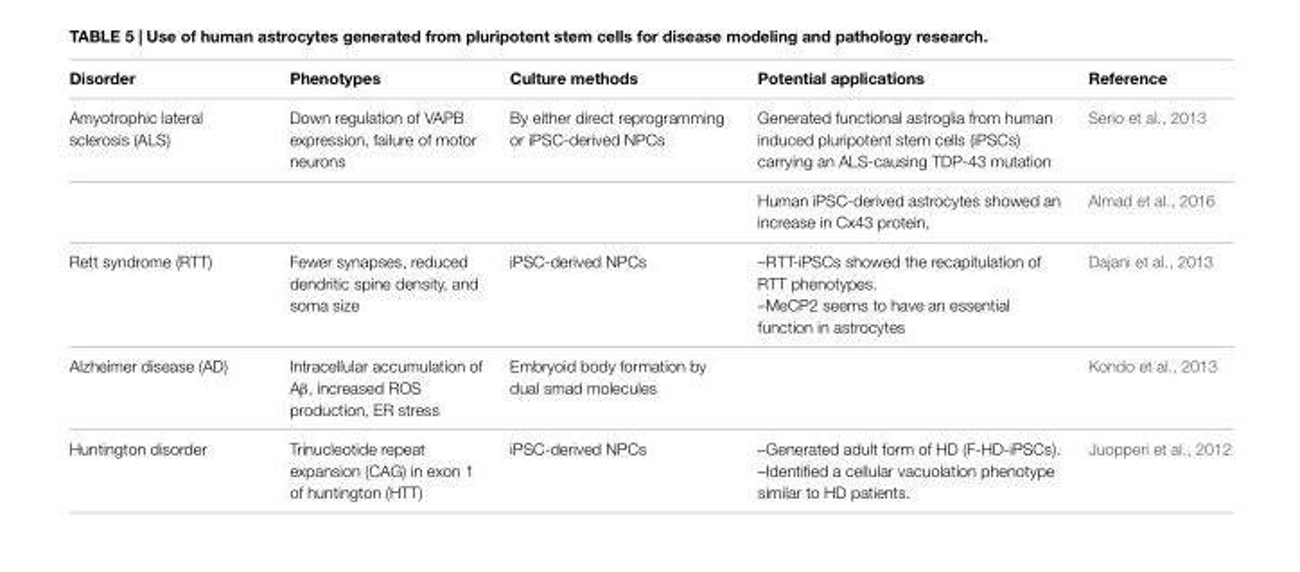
<table><thead><tr><td>Disorder</td><td>Phenotypes</td><td>Culture methods</td><td>Potential applications</td><td>Reference</td></tr></thead><tbody><tr><td rowspan="2">Amyotrophic lateral sclerosis (ALS)</td><td>Down regulation of VAPB expression, failure of motor neurons</td><td>By either direct reprogramming or iPSC-derived NPCs</td><td>Generated functional astroglia from human induced pluripotent stem cells (iPSCs) carrying an ALS-causing TDP-43 mutation</td><td>Serio et al., 2013</td></tr><tr><td></td><td></td><td>Human iPSC-derived astrocytes showed an increase in Cx43 protein,</td><td>Almad et al., 2016</td></tr><tr><td>Rett syndrome (RTT)</td><td>Fewer synapses, reduced dendritic spine density, and soma size</td><td>iPSC-derived NPCs</td><td>–RTT-iPSCs showed the recapitulation of RTT phenotypes. –MeCP2 seems to have an essential function in astrocytes</td><td>Dajani et al., 2013</td></tr><tr><td>Alzheimer disease (AD)</td><td>Intracellular accumulation of Aβ, increased ROS production, ER stress</td><td>Embryoid body formation by dual smad molecules</td><td></td><td>Kondo et al., 2013</td></tr><tr><td>Huntington disorder</td><td>Trinucleotide repeat expansion (CAG) in exon 1 of huntington (HTT)</td><td>iPSC-derived NPCs</td><td>–Generated adult form of HD (F-HD-iPSCs). –Identified a cellular vacuolation phenotype similar to HD patients.</td><td>Juopperi et al., 2012</td></tr></tbody></table>